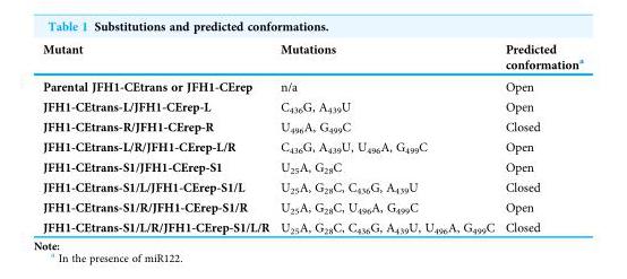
<table><thead><tr><td>Mutant</td><td>Mutations</td><td>Predicted conformation<sup>a</sup></td></tr></thead><tbody><tr><td>Parental JFH1-CEtrans or JFH1-CErep</td><td>n/a</td><td>Open</td></tr><tr><td>JFH1-CEtrans-L/JFH1-CErep-L</td><td>C<sub>436</sub>G, A<sub>439</sub>U</td><td>Open</td></tr><tr><td>JFH1-CEtrans-R/JFH1-CErep-R</td><td>U<sub>496</sub>A, G<sub>499</sub>C</td><td>Closed</td></tr><tr><td>JFH1-CEtrans-L/R/JFH1-CErep-L/R</td><td>C<sub>436</sub>G, A<sub>439</sub>U, U<sub>496</sub>A, G<sub>499</sub>C</td><td>Open</td></tr><tr><td>JFH1-CEtrans-S1/JFH1-CErep-S1</td><td>U<sub>25</sub>A, G<sub>28</sub>C</td><td>Open</td></tr><tr><td>JFH1-CEtrans-S1/L/JFH1-CErep-S1/L</td><td>U<sub>25</sub>A, G<sub>28</sub>C, C<sub>436</sub>G, A<sub>439</sub>U</td><td>Closed</td></tr><tr><td>JFH1-CEtrans-S1/R/JFH1-CErep-S1/R</td><td>U<sub>25</sub>A, G<sub>28</sub>C, U<sub>496</sub>A, G<sub>499</sub>C</td><td>Open</td></tr><tr><td>JFH1-CEtrans-S1/L/R/JFH1-CErep-S1/L/R</td><td>U<sub>25</sub>A, G<sub>28</sub>C, C<sub>436</sub>G, A<sub>439</sub>U, U<sub>496</sub>A, G<sub>499</sub>C</td><td>Closed</td></tr></tbody></table>